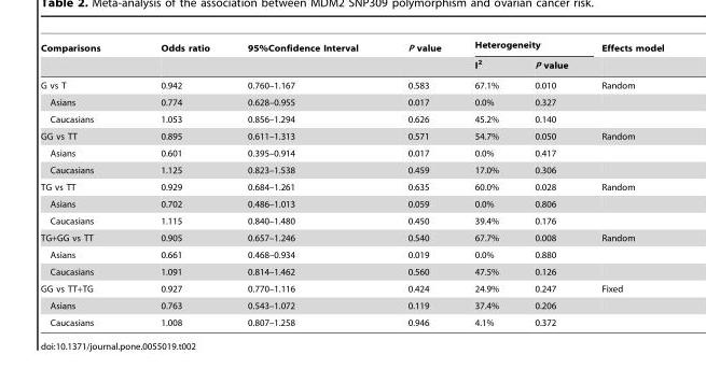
<table><thead><tr><td rowspan="2">Comparisons</td><td rowspan="2">Odds ratio</td><td rowspan="2">95%Confidence Interval</td><td rowspan="2">P value</td><td colspan="2">Heterogeneity</td><td rowspan="2">Effects model</td></tr><tr><td>I<sup>2</sup></td><td>P value</td></tr></thead><tbody><tr><td>G vs T</td><td>0.942</td><td>0.760–1.167</td><td>0.583</td><td>67.1%</td><td>0.010</td><td>Random</td></tr><tr><td>Asians</td><td>0.774</td><td>0.628–0.955</td><td>0.017</td><td>0.0%</td><td>0.327</td><td></td></tr><tr><td>Caucasians</td><td>1.053</td><td>0.856–1.294</td><td>0.626</td><td>45.2%</td><td>0.140</td><td></td></tr><tr><td>GG vs TT</td><td>0.895</td><td>0.611–1.313</td><td>0.571</td><td>54.7%</td><td>0.050</td><td>Random</td></tr><tr><td>Asians</td><td>0.601</td><td>0.395–0.914</td><td>0.017</td><td>0.0%</td><td>0.417</td><td></td></tr><tr><td>Caucasians</td><td>1.125</td><td>0.823–1.538</td><td>0.459</td><td>17.0%</td><td>0.306</td><td></td></tr><tr><td>TG vs TT</td><td>0.929</td><td>0.684–1.261</td><td>0.635</td><td>60.0%</td><td>0.028</td><td>Random</td></tr><tr><td>Asians</td><td>0.702</td><td>0.486–1.013</td><td>0.059</td><td>0.0%</td><td>0.806</td><td></td></tr><tr><td>Caucasians</td><td>1.115</td><td>0.840–1.480</td><td>0.450</td><td>39.4%</td><td>0.176</td><td></td></tr><tr><td>TG+GG vs TT</td><td>0.905</td><td>0.657–1.246</td><td>0.540</td><td>67.7%</td><td>0.008</td><td>Random</td></tr><tr><td>Asians</td><td>0.661</td><td>0.468–0.934</td><td>0.019</td><td>0.0%</td><td>0.880</td><td></td></tr><tr><td>Caucasians</td><td>1.091</td><td>0.814–1.462</td><td>0.560</td><td>47.5%</td><td>0.126</td><td></td></tr><tr><td>GG vs TT+TG</td><td>0.927</td><td>0.770–1.116</td><td>0.424</td><td>24.9%</td><td>0.247</td><td>Fixed</td></tr><tr><td>Asians</td><td>0.763</td><td>0.543–1.072</td><td>0.119</td><td>37.4%</td><td>0.206</td><td></td></tr><tr><td>Caucasians</td><td>1.008</td><td>0.807–1.258</td><td>0.946</td><td>4.1%</td><td>0.372</td><td></td></tr></tbody></table>